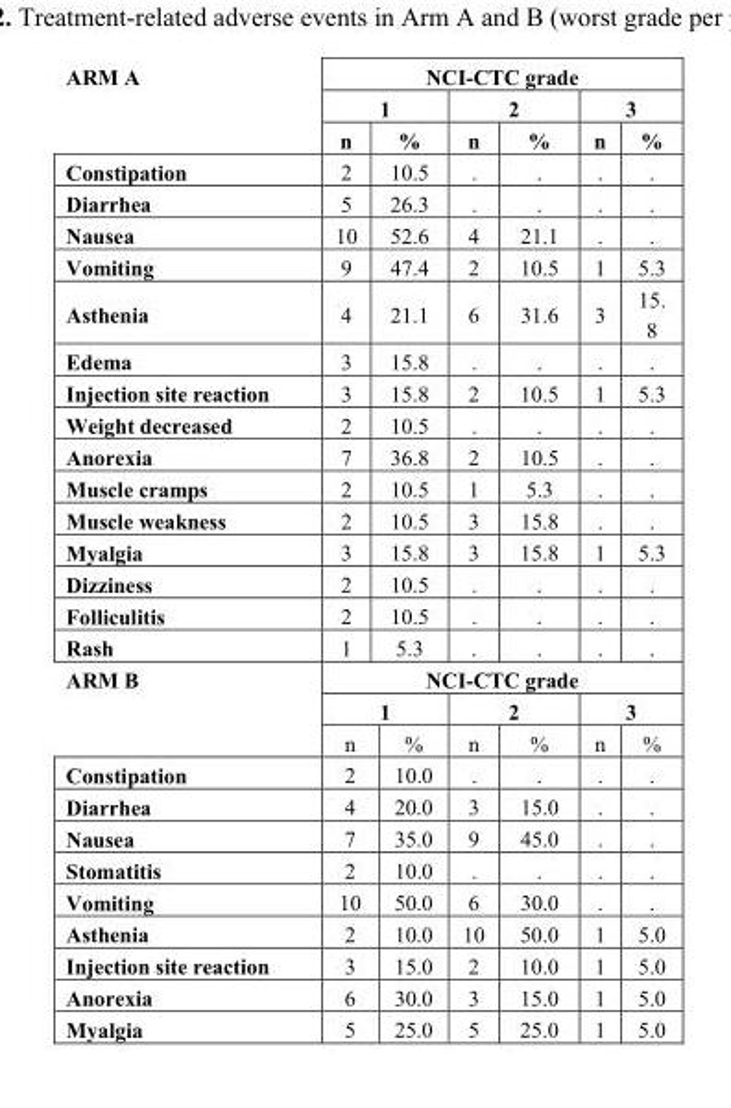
<table><thead><tr><td rowspan="3">ARM A</td><td colspan="6">NCI-CTC grade</td></tr><tr><td colspan="2">1</td><td colspan="2">2</td><td colspan="2">3</td></tr><tr><td>n</td><td>%</td><td>n</td><td>%</td><td>n</td><td>%</td></tr></thead><tbody><tr><td>Constipation</td><td>2</td><td>10.5</td><td>.</td><td>.</td><td>.</td><td>.</td></tr><tr><td>Diarrhea</td><td>5</td><td>26.3</td><td>.</td><td>.</td><td>.</td><td>.</td></tr><tr><td>Nausea</td><td>10</td><td>52.6</td><td>4</td><td>21.1</td><td>.</td><td>.</td></tr><tr><td>Vomiting</td><td>9</td><td>47.4</td><td>2</td><td>10.5</td><td>1</td><td>5.3</td></tr><tr><td>Asthenia</td><td>4</td><td>21.1</td><td>6</td><td>31.6</td><td>3</td><td>15. 8</td></tr><tr><td>Edema</td><td>3</td><td>15.8</td><td>.</td><td>.</td><td>.</td><td>.</td></tr><tr><td>Injection site reaction</td><td>3</td><td>15.8</td><td>2</td><td>10.5</td><td>1</td><td>5.3</td></tr><tr><td>Weight decreased</td><td>2</td><td>10.5</td><td>.</td><td>.</td><td>.</td><td>.</td></tr><tr><td>Anorexia</td><td>7</td><td>36.8</td><td>2</td><td>10.5</td><td>.</td><td>.</td></tr><tr><td>Muscle cramps</td><td>2</td><td>10.5</td><td>1</td><td>5.3</td><td>.</td><td>.</td></tr><tr><td>Muscle weakness</td><td>2</td><td>10.5</td><td>3</td><td>15.8</td><td>.</td><td>.</td></tr><tr><td>Myalgia</td><td>3</td><td>15.8</td><td>3</td><td>15.8</td><td>1</td><td>5.3</td></tr><tr><td>Dizziness</td><td>2</td><td>10.5</td><td>.</td><td>.</td><td>.</td><td>.</td></tr><tr><td>Folliculitis</td><td>2</td><td>10.5</td><td>.</td><td>.</td><td>.</td><td>.</td></tr><tr><td>Rash</td><td>1</td><td>5.3</td><td>.</td><td>.</td><td>.</td><td>.</td></tr><tr><td rowspan="3">ARM B</td><td colspan="6">NCI-CTC grade</td></tr><tr><td colspan="2">1</td><td colspan="2">2</td><td colspan="2">3</td></tr><tr><td>n</td><td>%</td><td>n</td><td>%</td><td>n</td><td>%</td></tr><tr><td>Constipation</td><td>2</td><td>10.0</td><td>.</td><td>.</td><td>.</td><td>.</td></tr><tr><td>Diarrhea</td><td>4</td><td>20.0</td><td>3</td><td>15.0</td><td>.</td><td>.</td></tr><tr><td>Nausea</td><td>7</td><td>35.0</td><td>9</td><td>45.0</td><td>.</td><td>.</td></tr><tr><td>Stomatitis</td><td>2</td><td>10.0</td><td>.</td><td>.</td><td>.</td><td>.</td></tr><tr><td>Vomiting</td><td>10</td><td>50.0</td><td>6</td><td>30.0</td><td>.</td><td>.</td></tr><tr><td>Asthenia</td><td>2</td><td>10.0</td><td>10</td><td>50.0</td><td>1</td><td>5.0</td></tr><tr><td>Injection site reaction</td><td>3</td><td>15.0</td><td>2</td><td>10.0</td><td>1</td><td>5.0</td></tr><tr><td>Anorexia</td><td>6</td><td>30.0</td><td>3</td><td>15.0</td><td>1</td><td>5.0</td></tr><tr><td>Myalgia</td><td>5</td><td>25.0</td><td>5</td><td>25.0</td><td>1</td><td>5.0</td></tr></tbody></table>